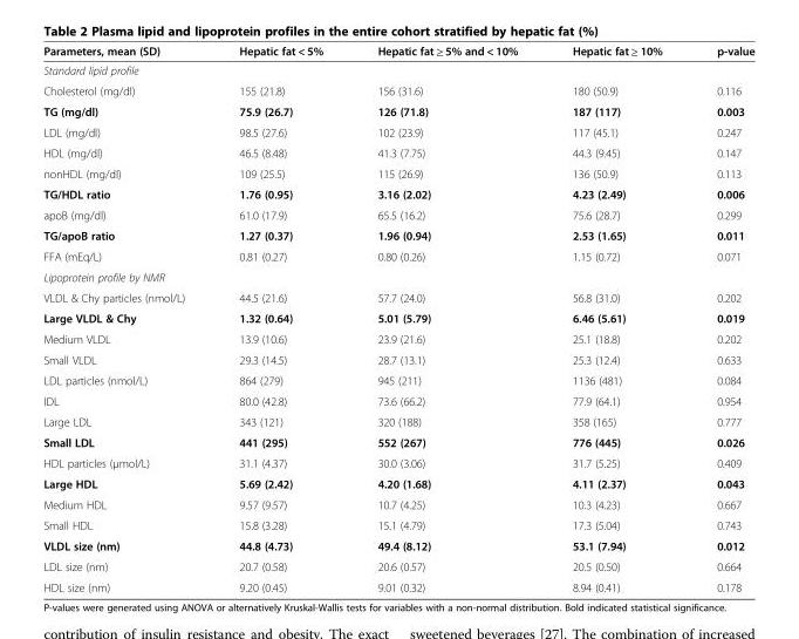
<table><thead><tr><td>Parameters, mean (SD)</td><td>Hepatic fat &lt; 5%</td><td>Hepatic fat ≥ 5% and &lt; 10%</td><td>Hepatic fat ≥ 10%</td><td>p-value</td></tr></thead><tbody><tr><td colspan="5">Standard lipid profile</td></tr><tr><td>Cholesterol (mg/dl)</td><td>155 (21.8)</td><td>156 (31.6)</td><td>180 (50.9)</td><td>0.116</td></tr><tr><td>TG (mg/dl)</td><td>75.9 (26.7)</td><td>126 (71.8)</td><td>187 (117)</td><td>0.003</td></tr><tr><td>LDL (mg/dl)</td><td>98.5 (27.6)</td><td>102 (23.9)</td><td>117 (45.1)</td><td>0.247</td></tr><tr><td>HDL (mg/dl)</td><td>46.5 (8.48)</td><td>41.3 (7.75)</td><td>44.3 (9.45)</td><td>0.147</td></tr><tr><td>nonHDL (mg/dl)</td><td>109 (25.5)</td><td>115 (26.9)</td><td>136 (50.9)</td><td>0.113</td></tr><tr><td>TG/HDL ratio</td><td>1.76 (0.95)</td><td>3.16 (2.02)</td><td>4.23 (2.49)</td><td>0.006</td></tr><tr><td>apoB (mg/dl)</td><td>61.0 (17.9)</td><td>65.5 (16.2)</td><td>75.6 (28.7)</td><td>0.299</td></tr><tr><td>TG/apoB ratio</td><td>1.27 (0.37)</td><td>1.96 (0.94)</td><td>2.53 (1.65)</td><td>0.011</td></tr><tr><td>FFA (mEq/L)</td><td>0.81 (0.27)</td><td>0.80 (0.26)</td><td>1.15 (0.72)</td><td>0.071</td></tr><tr><td colspan="5">Lipoprotein profile by NMR</td></tr><tr><td>VLDL &amp; Chy particles (nmol/L)</td><td>44.5 (21.6)</td><td>57.7 (24.0)</td><td>56.8 (31.0)</td><td>0.202</td></tr><tr><td>Large VLDL &amp; Chy</td><td>1.32 (0.64)</td><td>5.01 (5.79)</td><td>6.46 (5.61)</td><td>0.019</td></tr><tr><td>Medium VLDL</td><td>13.9 (10.6)</td><td>23.9 (21.6)</td><td>25.1 (18.8)</td><td>0.202</td></tr><tr><td>Small VLDL</td><td>29.3 (14.5)</td><td>28.7 (13.1)</td><td>25.3 (12.4)</td><td>0.633</td></tr><tr><td>LDL particles (nmol/L)</td><td>864 (279)</td><td>945 (211)</td><td>1136 (481)</td><td>0.084</td></tr><tr><td>IDL</td><td>80.0 (42.8)</td><td>73.6 (66.2)</td><td>77.9 (64.1)</td><td>0.954</td></tr><tr><td>Large LDL</td><td>343 (121)</td><td>320 (188)</td><td>358 (165)</td><td>0.777</td></tr><tr><td>Small LDL</td><td>441 (295)</td><td>552 (267)</td><td>776 (445)</td><td>0.026</td></tr><tr><td>HDL particles (μmol/L)</td><td>31.1 (4.37)</td><td>30.0 (3.06)</td><td>31.7 (5.25)</td><td>0.409</td></tr><tr><td>Large HDL</td><td>5.69 (2.42)</td><td>4.20 (1.68)</td><td>4.11 (2.37)</td><td>0.043</td></tr><tr><td>Medium HDL</td><td>9.57 (9.57)</td><td>10.7 (4.25)</td><td>10.3 (4.23)</td><td>0.667</td></tr><tr><td>Small HDL</td><td>15.8 (3.28)</td><td>15.1 (4.79)</td><td>17.3 (5.04)</td><td>0.743</td></tr><tr><td>VLDL size (nm)</td><td>44.8 (4.73)</td><td>49.4 (8.12)</td><td>53.1 (7.94)</td><td>0.012</td></tr><tr><td>LDL size (nm)</td><td>20.7 (0.58)</td><td>20.6 (0.57)</td><td>20.5 (0.50)</td><td>0.664</td></tr><tr><td>HDL size (nm)</td><td>9.20 (0.45)</td><td>9.01 (0.32)</td><td>8.94 (0.41)</td><td>0.178</td></tr></tbody></table>